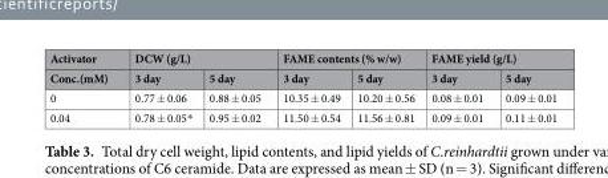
<table><thead><tr><td rowspan="2">Activator Conc.(mM)</td><td colspan="2">DCW (g/L)</td><td colspan="2">FAME contents (% w/w)</td><td colspan="2">FAME yield (g/L)</td></tr><tr><td>3 day</td><td>5 day</td><td>3 day</td><td>5 day</td><td>3 day</td><td>5 day</td></tr></thead><tbody><tr><td>0</td><td>0.77 ± 0.06</td><td>0.88 ± 0.05</td><td>10.35 ± 0.49</td><td>10.20 ± 0.56</td><td>0.08 ± 0.01</td><td>0.09 ± 0.01</td></tr><tr><td>0.04</td><td>0.78 ± 0.05*</td><td>0.95 ± 0.02</td><td>11.50 ± 0.54</td><td>11.56 ± 0.81</td><td>0.09 ± 0.01</td><td>0.11 ± 0.01</td></tr></tbody></table>